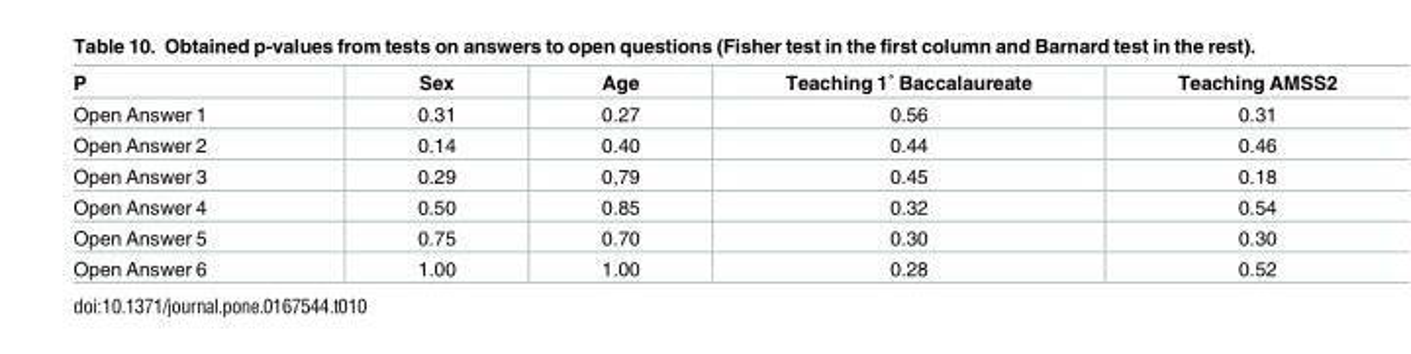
<table><thead><tr><td>P</td><td>Sex</td><td>Age</td><td>Teaching 1˚ Baccalaureate</td><td>Teaching AMSS2</td></tr></thead><tbody><tr><td>Open Answer 1</td><td>0.31</td><td>0.27</td><td>0.56</td><td>0.31</td></tr><tr><td>Open Answer 2</td><td>0.14</td><td>0.40</td><td>0.44</td><td>0.46</td></tr><tr><td>Open Answer 3</td><td>0.29</td><td>0,79</td><td>0.45</td><td>0.18</td></tr><tr><td>Open Answer 4</td><td>0.50</td><td>0.85</td><td>0.32</td><td>0.54</td></tr><tr><td>Open Answer 5</td><td>0.75</td><td>0.70</td><td>0.30</td><td>0.30</td></tr><tr><td>Open Answer 6</td><td>1.00</td><td>1.00</td><td>0.28</td><td>0.52</td></tr></tbody></table>